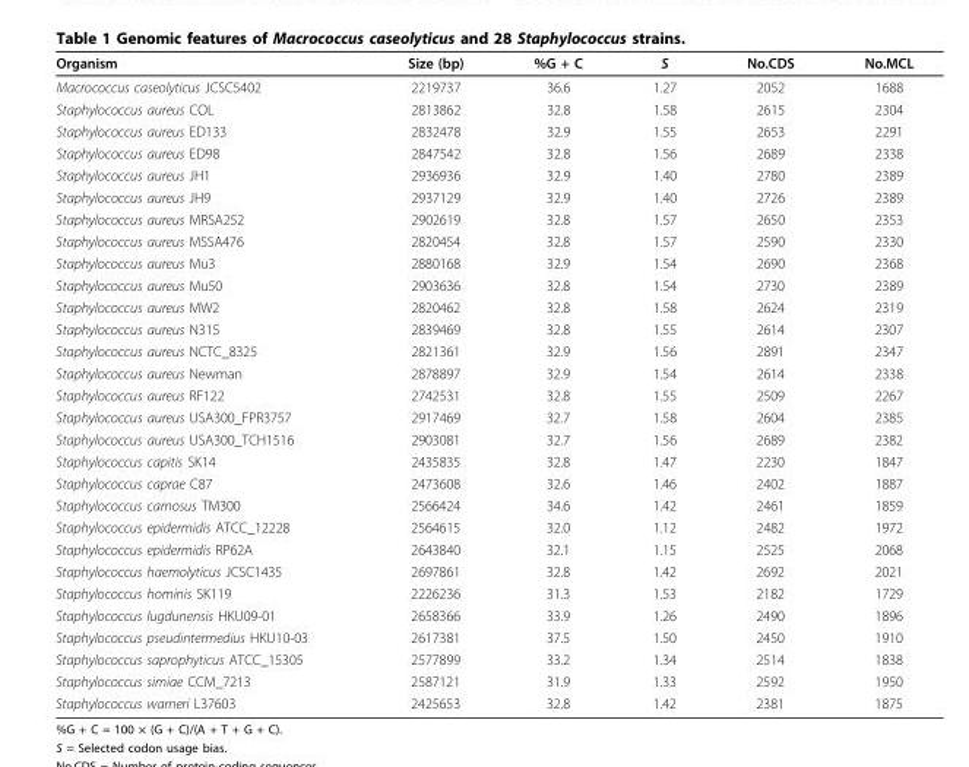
<table><thead><tr><td>Organism</td><td>Size (bp)</td><td>%G + C</td><td>S</td><td>No.CDS</td><td>No.MCL</td></tr></thead><tbody><tr><td>Macrococcus caseolyticus JCSC5402</td><td>2219737</td><td>36.6</td><td>1.27</td><td>2052</td><td>1688</td></tr><tr><td>Staphylococcus aureus COL</td><td>2813862</td><td>32.8</td><td>1.58</td><td>2615</td><td>2304</td></tr><tr><td>Staphylococcus aureus ED133</td><td>2832478</td><td>32.9</td><td>1.55</td><td>2653</td><td>2291</td></tr><tr><td>Staphylococcus aureus ED98</td><td>2847542</td><td>32.8</td><td>1.56</td><td>2689</td><td>2338</td></tr><tr><td>Staphylococcus aureus JH1</td><td>2936936</td><td>32.9</td><td>1.40</td><td>2780</td><td>2389</td></tr><tr><td>Staphylococcus aureus JH9</td><td>2937129</td><td>32.9</td><td>1.40</td><td>2726</td><td>2389</td></tr><tr><td>Staphylococcus aureus MRSA252</td><td>2902619</td><td>32.8</td><td>1.57</td><td>2650</td><td>2353</td></tr><tr><td>Staphylococcus aureus MSSA476</td><td>2820454</td><td>32.8</td><td>1.57</td><td>2590</td><td>2330</td></tr><tr><td>Staphylococcus aureus Mu3</td><td>2880168</td><td>32.9</td><td>1.54</td><td>2690</td><td>2368</td></tr><tr><td>Staphylococcus aureus Mu50</td><td>2903636</td><td>32.8</td><td>1.54</td><td>2730</td><td>2389</td></tr><tr><td>Staphylococcus aureus MW2</td><td>2820462</td><td>32.8</td><td>1.58</td><td>2624</td><td>2319</td></tr><tr><td>Staphylococcus aureus N315</td><td>2839469</td><td>32.8</td><td>1.55</td><td>2614</td><td>2307</td></tr><tr><td>Staphylococcus aureus NCTC_8325</td><td>2821361</td><td>32.9</td><td>1.56</td><td>2891</td><td>2347</td></tr><tr><td>Staphylococcus aureus Newman</td><td>2878897</td><td>32.9</td><td>1.54</td><td>2614</td><td>2338</td></tr><tr><td>Staphylococcus aureus RF122</td><td>2742531</td><td>32.8</td><td>1.55</td><td>2509</td><td>2267</td></tr><tr><td>Staphylococcus aureus USA300_FPR3757</td><td>2917469</td><td>32.7</td><td>1.58</td><td>2604</td><td>2385</td></tr><tr><td>Staphylococcus aureus USA300_TCH1516</td><td>2903081</td><td>32.7</td><td>1.56</td><td>2689</td><td>2382</td></tr><tr><td>Staphylococcus capitis SK14</td><td>2435835</td><td>32.8</td><td>1.47</td><td>2230</td><td>1847</td></tr><tr><td>Staphylococcus caprae C87</td><td>2473608</td><td>32.6</td><td>1.46</td><td>2402</td><td>1887</td></tr><tr><td>Staphylococcus carnosus TM300</td><td>2566424</td><td>34.6</td><td>1.42</td><td>2461</td><td>1859</td></tr><tr><td>Staphylococcus epidermidis ATCC_12228</td><td>2564615</td><td>32.0</td><td>1.12</td><td>2482</td><td>1972</td></tr><tr><td>Staphylococcus epidermidis RP62A</td><td>2643840</td><td>32.1</td><td>1.15</td><td>2525</td><td>2068</td></tr><tr><td>Staphylococcus haemolyticus JCSC1435</td><td>2697861</td><td>32.8</td><td>1.42</td><td>2692</td><td>2021</td></tr><tr><td>Staphylococcus hominis SK119</td><td>2226236</td><td>31.3</td><td>1.53</td><td>2182</td><td>1729</td></tr><tr><td>Staphylococcus lugdunensis HKU09-01</td><td>2658366</td><td>33.9</td><td>1.26</td><td>2490</td><td>1896</td></tr><tr><td>Staphylococcus pseudintermedius HKU10-03</td><td>2617381</td><td>37.5</td><td>1.50</td><td>2450</td><td>1910</td></tr><tr><td>Staphylococcus saprophyticus ATCC_15305</td><td>2577899</td><td>33.2</td><td>1.34</td><td>2514</td><td>1838</td></tr><tr><td>Staphylococcus simiae CCM_7213</td><td>2587121</td><td>31.9</td><td>1.33</td><td>2592</td><td>1950</td></tr><tr><td>Staphylococcus warneri L37603</td><td>2425653</td><td>32.8</td><td>1.42</td><td>2381</td><td>1875</td></tr></tbody></table>